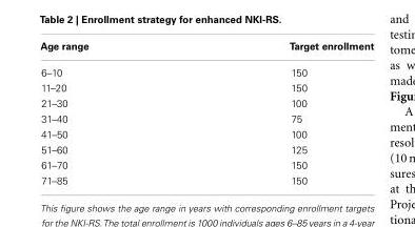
<table><thead><tr><td>Age range</td><td>Target enrollment</td></tr></thead><tbody><tr><td>6–10</td><td>150</td></tr><tr><td>11–20</td><td>150</td></tr><tr><td>21–30</td><td>100</td></tr><tr><td>31–40</td><td>75</td></tr><tr><td>41–50</td><td>100</td></tr><tr><td>51–60</td><td>125</td></tr><tr><td>61–70</td><td>150</td></tr><tr><td>71–85</td><td>150</td></tr></tbody></table>